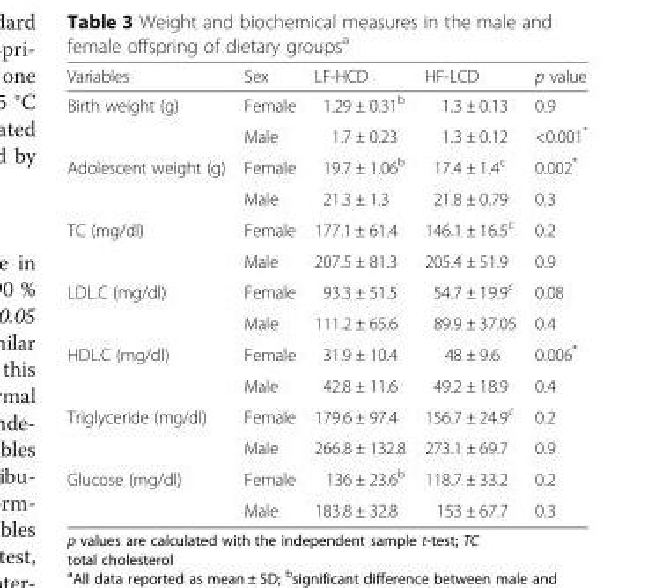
<table><thead><tr><td>Variables</td><td>Sex</td><td>LF-HCD</td><td>HF-LCD</td><td>p value</td></tr></thead><tbody><tr><td rowspan="2">Birth weight (g)</td><td>Female</td><td>1.29 ± 0.31<sup>b</sup></td><td>1.3 ± 0.13</td><td>0.9</td></tr><tr><td>Male</td><td>1.7 ± 0.23</td><td>1.3 ± 0.12</td><td>&lt;0.001*</td></tr><tr><td rowspan="2">Adolescent weight (g)</td><td>Female</td><td>19.7 ± 1.06<sup>b</sup></td><td>17.4 ± 1.4<sup>c</sup></td><td>0.002*</td></tr><tr><td>Male</td><td>21.3 ± 1.3</td><td>21.8 ± 0.79</td><td>0.3</td></tr><tr><td rowspan="2">TC (mg/dl)</td><td>Female</td><td>177.1 ± 61.4</td><td>146.1 ± 16.5<sup>c</sup></td><td>0.2</td></tr><tr><td>Male</td><td>207.5 ± 81.3</td><td>205.4 ± 51.9</td><td>0.9</td></tr><tr><td rowspan="2">LDL.C (mg/dl)</td><td>Female</td><td>93.3 ± 51.5</td><td>54.7 ± 19.9<sup>c</sup></td><td>0.08</td></tr><tr><td>Male</td><td>111.2 ± 65.6</td><td>89.9 ± 37.05</td><td>0.4</td></tr><tr><td rowspan="2">HDL.C (mg/dl)</td><td>Female</td><td>31.9 ± 10.4</td><td>48 ± 9.6</td><td>0.006*</td></tr><tr><td>Male</td><td>42.8 ± 11.6</td><td>49.2 ± 18.9</td><td>0.4</td></tr><tr><td rowspan="2">Triglyceride (mg/dl)</td><td>Female</td><td>179.6 ± 97.4</td><td>156.7 ± 24.9<sup>c</sup></td><td>0.2</td></tr><tr><td>Male</td><td>266.8 ± 132.8</td><td>273.1 ± 69.7</td><td>0.9</td></tr><tr><td rowspan="2">Glucose (mg/dl)</td><td>Female</td><td>136 ± 23.6<sup>b</sup></td><td>118.7 ± 33.2</td><td>0.2</td></tr><tr><td>Male</td><td>183.8 ± 32.8</td><td>153 ± 67.7</td><td>0.3</td></tr></tbody></table>